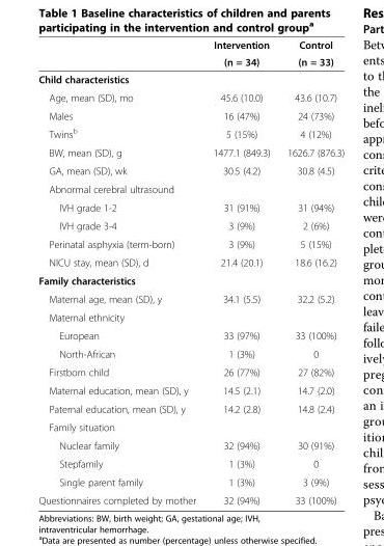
<table><thead><tr><td rowspan="2"></td><td rowspan="2">Intervention (n = 34)</td><td rowspan="2">Control (n = 33)</td></tr><tr></tr></thead><tbody><tr><td colspan="3">Child characteristics</td></tr><tr><td>Age, mean (SD), mo</td><td>45.6 (10.0)</td><td>43.6 (10.7)</td></tr><tr><td>Males</td><td>16 (47%)</td><td>24 (73%)</td></tr><tr><td>Twins<sup>b</sup></td><td>5 (15%)</td><td>4 (12%)</td></tr><tr><td>BW, mean (SD), g</td><td>1477.1 (849.3)</td><td>1626.7 (876.3)</td></tr><tr><td>GA, mean (SD), wk</td><td>30.5 (4.2)</td><td>30.8 (4.5)</td></tr><tr><td colspan="3">Abnormal cerebral ultrasound</td></tr><tr><td>IVH grade 1-2</td><td>31 (91%)</td><td>31 (94%)</td></tr><tr><td>IVH grade 3-4</td><td>3 (9%)</td><td>2 (6%)</td></tr><tr><td>Perinatal asphyxia (term-born)</td><td>3 (9%)</td><td>5 (15%)</td></tr><tr><td>NICU stay, mean (SD), d</td><td>21.4 (20.1)</td><td>18.6 (16.2)</td></tr><tr><td colspan="3">Family characteristics</td></tr><tr><td>Maternal age, mean (SD), y</td><td>34.1 (5.5)</td><td>32.2 (5.2)</td></tr><tr><td colspan="3">Maternal ethnicity</td></tr><tr><td>European</td><td>33 (97%)</td><td>33 (100%)</td></tr><tr><td>North-African</td><td>1 (3%)</td><td>0</td></tr><tr><td>Firstborn child</td><td>26 (77%)</td><td>27 (82%)</td></tr><tr><td>Maternal education, mean (SD), y</td><td>14.5 (2.1)</td><td>14.7 (2.0)</td></tr><tr><td>Paternal education, mean (SD), y</td><td>14.2 (2.8)</td><td>14.8 (2.4)</td></tr><tr><td colspan="3">Family situation</td></tr><tr><td>Nuclear family</td><td>32 (94%)</td><td>30 (91%)</td></tr><tr><td>Stepfamily</td><td>1 (3%)</td><td>0</td></tr><tr><td>Single parent family</td><td>1 (3%)</td><td>3 (9%)</td></tr><tr><td>Questionnaires completed by mother</td><td>32 (94%)</td><td>33 (100%)</td></tr></tbody></table>